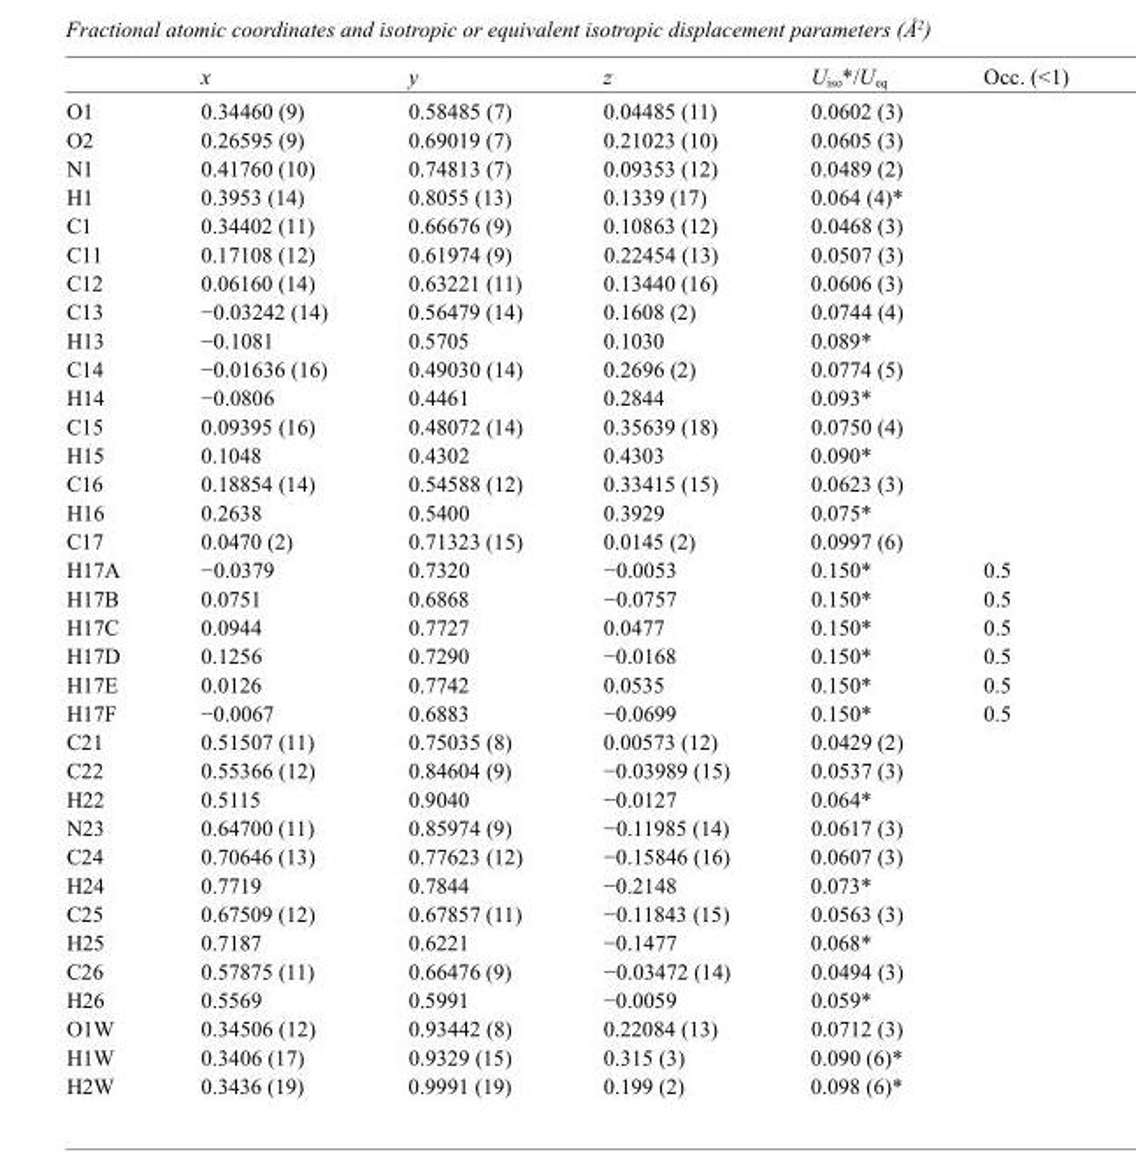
<table><thead><tr><td></td><td>x</td><td>y</td><td>z</td><td>U<sub>iso</sub>*/U<sub>eq</sub></td><td>Occ. (&lt;1)</td></tr></thead><tbody><tr><td>O1</td><td>0.34460 (9)</td><td>0.58485 (7)</td><td>0.04485 (11)</td><td>0.0602 (3)</td><td></td></tr><tr><td>O2</td><td>0.26595 (9)</td><td>0.69019 (7)</td><td>0.21023 (10)</td><td>0.0605 (3)</td><td></td></tr><tr><td>N1</td><td>0.41760 (10)</td><td>0.74813 (7)</td><td>0.09353 (12)</td><td>0.0489 (2)</td><td></td></tr><tr><td>H1</td><td>0.3953 (14)</td><td>0.8055 (13)</td><td>0.1339 (17)</td><td>0.064 (4)*</td><td></td></tr><tr><td>C1</td><td>0.34402 (11)</td><td>0.66676 (9)</td><td>0.10863 (12)</td><td>0.0468 (3)</td><td></td></tr><tr><td>C11</td><td>0.17108 (12)</td><td>0.61974 (9)</td><td>0.22454 (13)</td><td>0.0507 (3)</td><td></td></tr><tr><td>C12</td><td>0.06160 (14)</td><td>0.63221 (11)</td><td>0.13440 (16)</td><td>0.0606 (3)</td><td></td></tr><tr><td>C13</td><td>−0.03242 (14)</td><td>0.56479 (14)</td><td>0.1608 (2)</td><td>0.0744 (4)</td><td></td></tr><tr><td>H13</td><td>−0.1081</td><td>0.5705</td><td>0.1030</td><td>0.089*</td><td></td></tr><tr><td>C14</td><td>−0.01636 (16)</td><td>0.49030 (14)</td><td>0.2696 (2)</td><td>0.0774 (5)</td><td></td></tr><tr><td>H14</td><td>−0.0806</td><td>0.4461</td><td>0.2844</td><td>0.093*</td><td></td></tr><tr><td>C15</td><td>0.09395 (16)</td><td>0.48072 (14)</td><td>0.35639 (18)</td><td>0.0750 (4)</td><td></td></tr><tr><td>H15</td><td>0.1048</td><td>0.4302</td><td>0.4303</td><td>0.090*</td><td></td></tr><tr><td>C16</td><td>0.18854 (14)</td><td>0.54588 (12)</td><td>0.33415 (15)</td><td>0.0623 (3)</td><td></td></tr><tr><td>H16</td><td>0.2638</td><td>0.5400</td><td>0.3929</td><td>0.075*</td><td></td></tr><tr><td>C17</td><td>0.0470 (2)</td><td>0.71323 (15)</td><td>0.0145 (2)</td><td>0.0997 (6)</td><td></td></tr><tr><td>H17A</td><td>−0.0379</td><td>0.7320</td><td>−0.0053</td><td>0.150*</td><td>0.5</td></tr><tr><td>H17B</td><td>0.0751</td><td>0.6868</td><td>−0.0757</td><td>0.150*</td><td>0.5</td></tr><tr><td>H17C</td><td>0.0944</td><td>0.7727</td><td>0.0477</td><td>0.150*</td><td>0.5</td></tr><tr><td>H17D</td><td>0.1256</td><td>0.7290</td><td>−0.0168</td><td>0.150*</td><td>0.5</td></tr><tr><td>H17E</td><td>0.0126</td><td>0.7742</td><td>0.0535</td><td>0.150*</td><td>0.5</td></tr><tr><td>H17F</td><td>−0.0067</td><td>0.6883</td><td>−0.0699</td><td>0.150*</td><td>0.5</td></tr><tr><td>C21</td><td>0.51507 (11)</td><td>0.75035 (8)</td><td>0.00573 (12)</td><td>0.0429 (2)</td><td></td></tr><tr><td>C22</td><td>0.55366 (12)</td><td>0.84604 (9)</td><td>−0.03989 (15)</td><td>0.0537 (3)</td><td></td></tr><tr><td>H22</td><td>0.5115</td><td>0.9040</td><td>−0.0127</td><td>0.064*</td><td></td></tr><tr><td>N23</td><td>0.64700 (11)</td><td>0.85974 (9)</td><td>−0.11985 (14)</td><td>0.0617 (3)</td><td></td></tr><tr><td>C24</td><td>0.70646 (13)</td><td>0.77623 (12)</td><td>−0.15846 (16)</td><td>0.0607 (3)</td><td></td></tr><tr><td>H24</td><td>0.7719</td><td>0.7844</td><td>−0.2148</td><td>0.073*</td><td></td></tr><tr><td>C25</td><td>0.67509 (12)</td><td>0.67857 (11)</td><td>−0.11843 (15)</td><td>0.0563 (3)</td><td></td></tr><tr><td>H25</td><td>0.7187</td><td>0.6221</td><td>−0.1477</td><td>0.068*</td><td></td></tr><tr><td>C26</td><td>0.57875 (11)</td><td>0.66476 (9)</td><td>−0.03472 (14)</td><td>0.0494 (3)</td><td></td></tr><tr><td>H26</td><td>0.5569</td><td>0.5991</td><td>−0.0059</td><td>0.059*</td><td></td></tr><tr><td>O1W</td><td>0.34506 (12)</td><td>0.93442 (8)</td><td>0.22084 (13)</td><td>0.0712 (3)</td><td></td></tr><tr><td>H1W</td><td>0.3406 (17)</td><td>0.9329 (15)</td><td>0.315 (3)</td><td>0.090 (6)*</td><td></td></tr><tr><td>H2W</td><td>0.3436 (19)</td><td>0.9991 (19)</td><td>0.199 (2)</td><td>0.098 (6)*</td><td></td></tr></tbody></table>